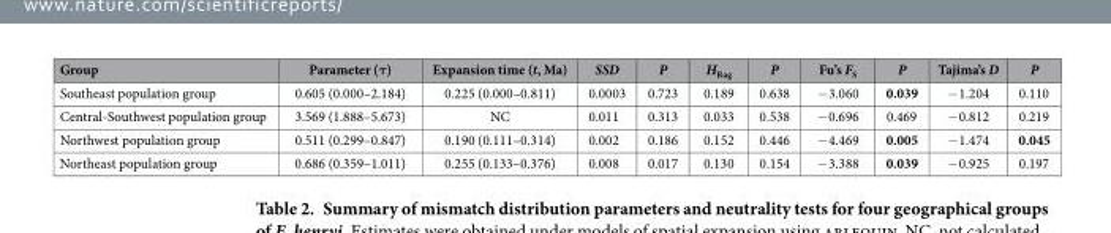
<table><thead><tr><td>Group</td><td>Parameter (τ)</td><td>Expansion time (t, Ma)</td><td>SSD</td><td>P</td><td>H<sub>Rag</sub></td><td>P</td><td>Fu’s F<sub>S</sub></td><td>P</td><td>Tajima’s D</td><td>P</td></tr></thead><tbody><tr><td>Southeast population group</td><td>0.605 (0.000–2.184)</td><td>0.225 (0.000–0.811)</td><td>0.0003</td><td>0.723</td><td>0.189</td><td>0.638</td><td>− 3.060</td><td>0.039</td><td>− 1.204</td><td>0.110</td></tr><tr><td>Central-Southwest population group</td><td>3.569 (1.888–5.673)</td><td>NC</td><td>0.011</td><td>0.313</td><td>0.033</td><td>0.538</td><td>− 0.696</td><td>0.469</td><td>− 0.812</td><td>0.219</td></tr><tr><td>Northwest population group</td><td>0.511 (0.299–0.847)</td><td>0.190 (0.111–0.314)</td><td>0.002</td><td>0.186</td><td>0.152</td><td>0.446</td><td>− 4.469</td><td>0.005</td><td>− 1.474</td><td>0.045</td></tr><tr><td>Northeast population group</td><td>0.686 (0.359–1.011)</td><td>0.255 (0.133–0.376)</td><td>0.008</td><td>0.017</td><td>0.130</td><td>0.154</td><td>− 3.388</td><td>0.039</td><td>− 0.925</td><td>0.197</td></tr></tbody></table>